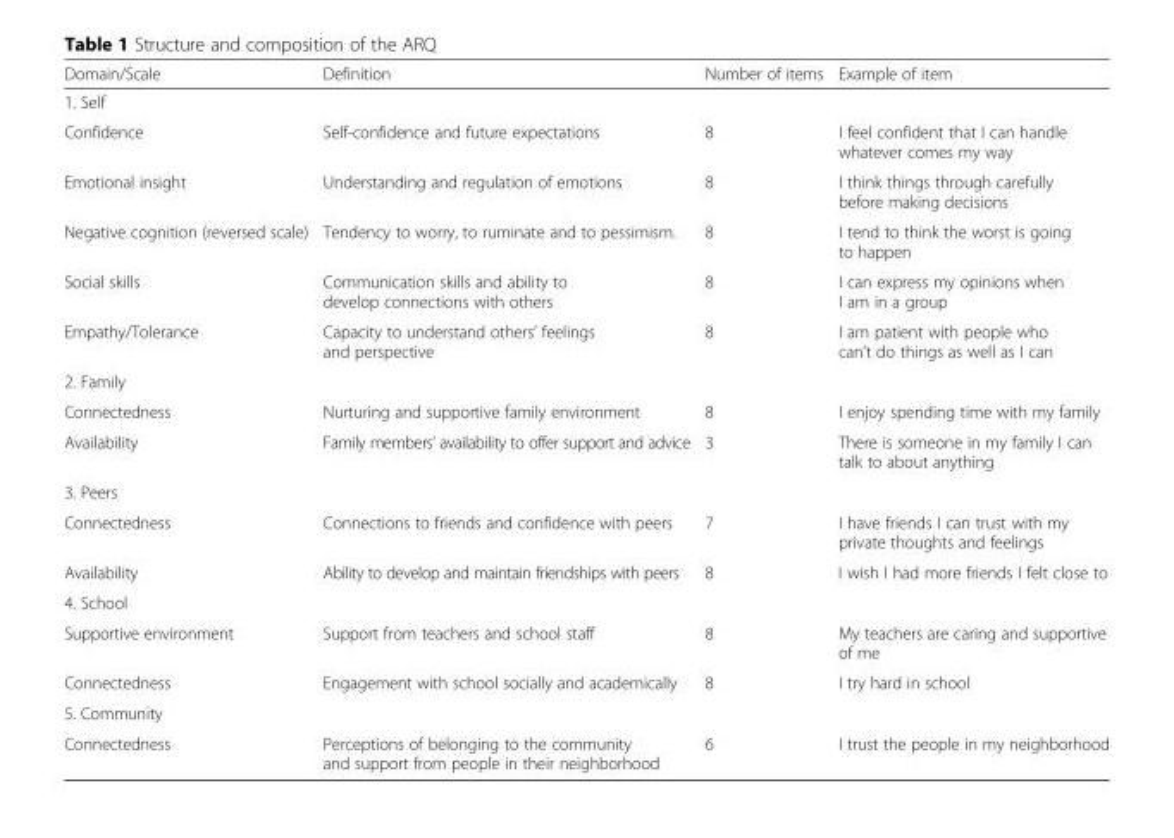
<table><thead><tr><td>Domain/Scale</td><td>Definition</td><td>Number of items</td><td>Example of item</td></tr></thead><tbody><tr><td colspan="4">1. Self</td></tr><tr><td>Confidence</td><td>Self-confidence and future expectations</td><td>8</td><td>I feel confident that I can handle whatever comes my way</td></tr><tr><td>Emotional insight</td><td>Understanding and regulation of emotions</td><td>8</td><td>I think things through carefully before making decisions</td></tr><tr><td>Negative cognition (reversed scale)</td><td>Tendency to worry, to ruminate and to pessimism.</td><td>8</td><td>I tend to think the worst is going to happen</td></tr><tr><td>Social skills</td><td>Communication skills and ability to develop connections with others</td><td>8</td><td>I can express my opinions when I am in a group</td></tr><tr><td>Empathy/Tolerance</td><td>Capacity to understand others’ feelings and perspective</td><td>8</td><td>I am patient with people who can’t do things as well as I can</td></tr><tr><td colspan="4">2. Family</td></tr><tr><td>Connectedness</td><td>Nurturing and supportive family environment</td><td>8</td><td>I enjoy spending time with my family</td></tr><tr><td>Availability</td><td>Family members’ availability to offer support and advice</td><td>3</td><td>There is someone in my family I can talk to about anything</td></tr><tr><td colspan="4">3. Peers</td></tr><tr><td>Connectedness</td><td>Connections to friends and confidence with peers</td><td>7</td><td>I have friends I can trust with my private thoughts and feelings</td></tr><tr><td>Availability</td><td>Ability to develop and maintain friendships with peers</td><td>8</td><td>I wish I had more friends I felt close to</td></tr><tr><td colspan="4">4. School</td></tr><tr><td>Supportive environment</td><td>Support from teachers and school staff</td><td>8</td><td>My teachers are caring and supportive of me</td></tr><tr><td>Connectedness</td><td>Engagement with school socially and academically</td><td>8</td><td>I try hard in school</td></tr><tr><td colspan="4">5. Community</td></tr><tr><td>Connectedness</td><td>Perceptions of belonging to the community and support from people in their neighborhood</td><td>6</td><td>I trust the people in my neighborhood</td></tr></tbody></table>